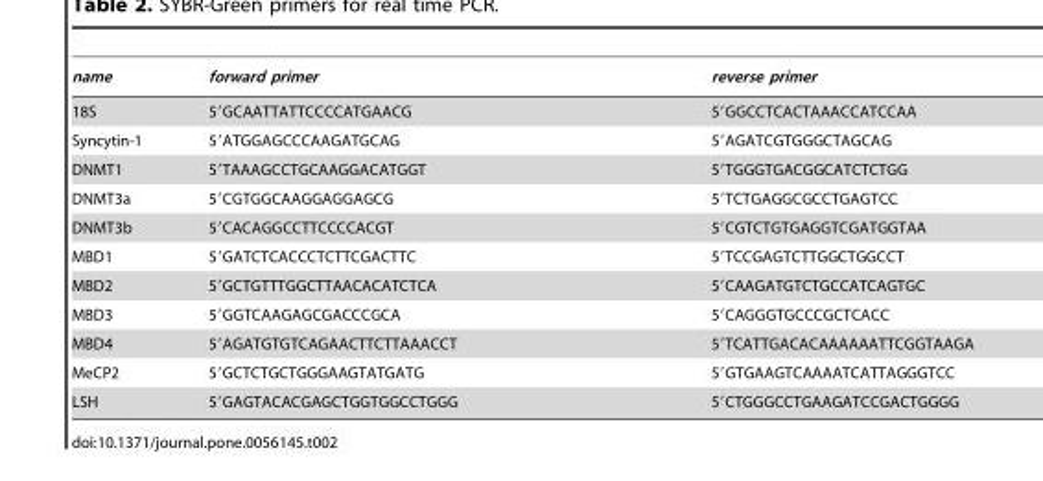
<table><thead><tr><td>name</td><td>forward primer</td><td>reverse primer</td></tr></thead><tbody><tr><td>18S</td><td>5′GCAATTATTCCCCATGAACG</td><td>5′GGCCTCACTAAACCATCCAA</td></tr><tr><td>Syncytin-1</td><td>5′ATGGAGCCCAAGATGCAG</td><td>5′AGATCGTGGGCTAGCAG</td></tr><tr><td>DNMT1</td><td>5′TAAAGCCTGCAAGGACATGGT</td><td>5′TGGGTGACGGCATCTCTGG</td></tr><tr><td>DNMT3a</td><td>5′CGTGGCAAGGAGGAGCG</td><td>5′TCTGAGGCGCCTGAGTCC</td></tr><tr><td>DNMT3b</td><td>5′CACAGGCCTTCCCCACGT</td><td>5′CGTCTGTGAGGTCGATGGTAA</td></tr><tr><td>MBD1</td><td>5′GATCTCACCCTCTTCGACTTC</td><td>5′TCCGAGTCTTGGCTGGCCT</td></tr><tr><td>MBD2</td><td>5′GCTGTTTGGCTTAACACATCTCA</td><td>5′CAAGATGTCTGCCATCAGTGC</td></tr><tr><td>MBD3</td><td>5′GGTCAAGAGCGACCCGCA</td><td>5′CAGGGTGCCCGCTCACC</td></tr><tr><td>MBD4</td><td>5′AGATGTGTCAGAACTTCTTAAACCT</td><td>5′TCATTGACACAAAAAATTCGGTAAGA</td></tr><tr><td>MeCP2</td><td>5′GCTCTGCTGGGAAGTATGATG</td><td>5′GTGAAGTCAAAATCATTAGGGTCC</td></tr><tr><td>LSH</td><td>5′GAGTACACGAGCTGGTGGCCTGGG</td><td>5′CTGGGCCTGAAGATCCGACTGGGG</td></tr></tbody></table>